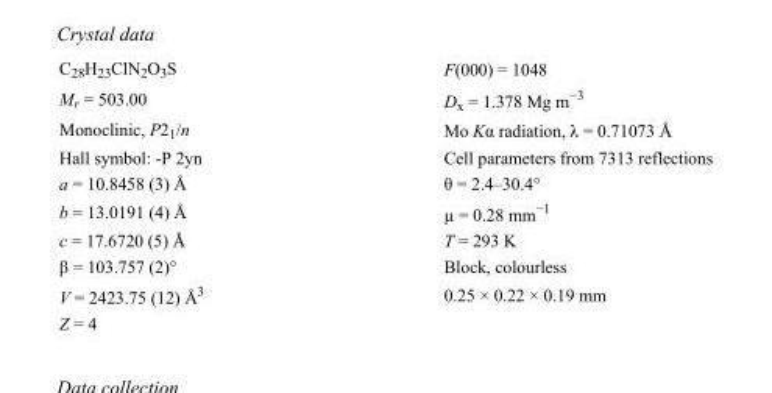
<table><tbody><tr><td>C<sub>28</sub>H<sub>23</sub>ClN<sub>2</sub>O<sub>3</sub>S</td><td>F(000) = 1048</td></tr><tr><td>M<sub>r</sub> = 503.00</td><td>D<sub>x</sub> = 1.378 Mg m<sup>−3</sup></td></tr><tr><td>Monoclinic, P2<sub>1</sub>/n</td><td>Mo Kα radiation, λ = 0.71073 Å</td></tr><tr><td>Hall symbol: -P 2yn</td><td>Cell parameters from 7313 reflections</td></tr><tr><td>a = 10.8458 (3) Å</td><td>θ = 2.4–30.4°</td></tr><tr><td>b = 13.0191 (4) Å</td><td>µ = 0.28 mm<sup>−1</sup></td></tr><tr><td>c = 17.6720 (5) Å</td><td>T = 293 K</td></tr><tr><td>β = 103.757 (2)°</td><td>Block, colourless</td></tr><tr><td>V = 2423.75 (12) Å<sup>3</sup></td><td>0.25 × 0.22 × 0.19 mm</td></tr><tr><td>Z = 4</td><td></td></tr></tbody></table>